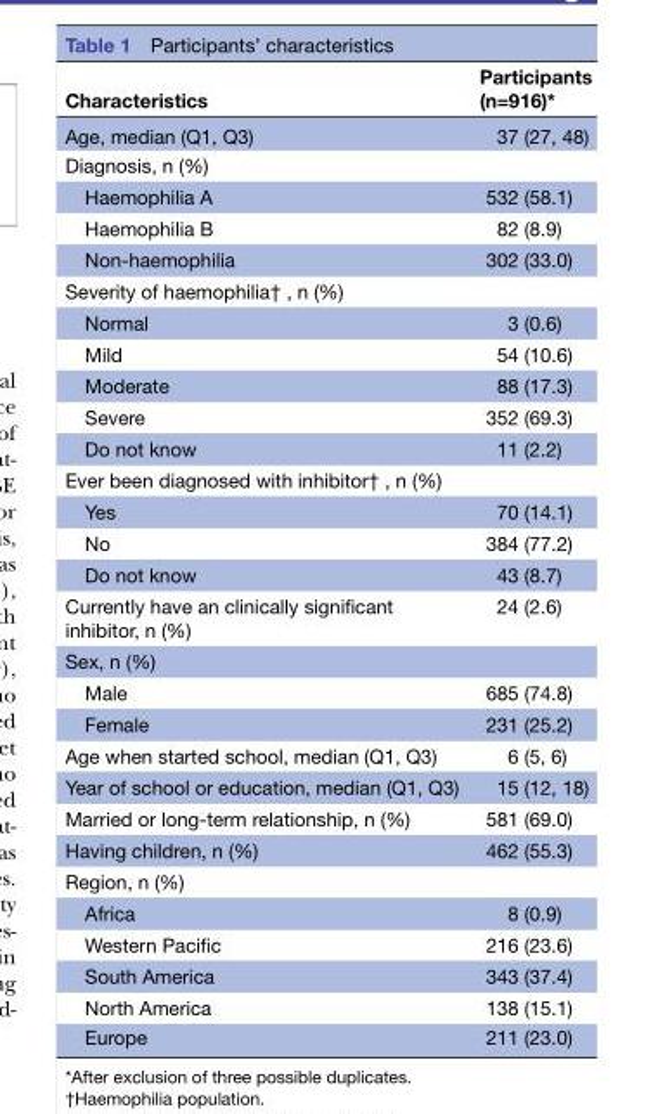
<table><thead><tr><td>Characteristics</td><td>Participants (n=916)*</td></tr></thead><tbody><tr><td>Age, median (Q1, Q3)</td><td>37 (27, 48)</td></tr><tr><td colspan="2">Diagnosis, n (%)</td></tr><tr><td>Haemophilia A</td><td>532 (58.1)</td></tr><tr><td>Haemophilia B</td><td>82 (8.9)</td></tr><tr><td>Non-haemophilia</td><td>302 (33.0)</td></tr><tr><td colspan="2">Severity of haemophilia† , n (%)</td></tr><tr><td>Normal</td><td>3 (0.6)</td></tr><tr><td>Mild</td><td>54 (10.6)</td></tr><tr><td>Moderate</td><td>88 (17.3)</td></tr><tr><td>Severe</td><td>352 (69.3)</td></tr><tr><td>Do not know</td><td>11 (2.2)</td></tr><tr><td colspan="2">Ever been diagnosed with inhibitor† , n (%)</td></tr><tr><td>Yes</td><td>70 (14.1)</td></tr><tr><td>No</td><td>384 (77.2)</td></tr><tr><td>Do not know</td><td>43 (8.7)</td></tr><tr><td>Currently have an clinically significant inhibitor, n (%)</td><td>24 (2.6)</td></tr><tr><td colspan="2">Sex, n (%)</td></tr><tr><td>Male</td><td>685 (74.8)</td></tr><tr><td>Female</td><td>231 (25.2)</td></tr><tr><td>Age when started school, median (Q1, Q3)</td><td>6 (5, 6)</td></tr><tr><td>Year of school or education, median (Q1, Q3)</td><td>15 (12, 18)</td></tr><tr><td>Married or long-term relationship, n (%)</td><td>581 (69.0)</td></tr><tr><td>Having children, n (%)</td><td>462 (55.3)</td></tr><tr><td colspan="2">Region, n (%)</td></tr><tr><td>Africa</td><td>8 (0.9)</td></tr><tr><td>Western Pacific</td><td>216 (23.6)</td></tr><tr><td>South America</td><td>343 (37.4)</td></tr><tr><td>North America</td><td>138 (15.1)</td></tr><tr><td>Europe</td><td>211 (23.0)</td></tr></tbody></table>